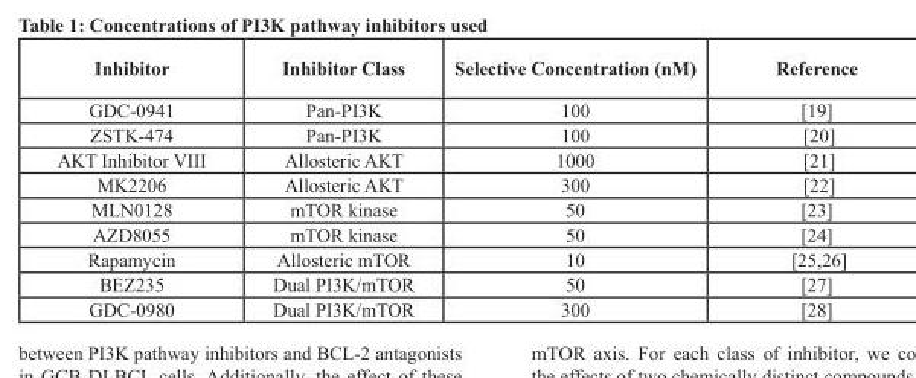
<table><thead><tr><td>Inhibitor</td><td>Inhibitor Class</td><td>Selective Concentration (nM)</td><td>Reference</td></tr></thead><tbody><tr><td>GDC-0941</td><td>Pan-PI3K</td><td>100</td><td>[19]</td></tr><tr><td>ZSTK-474</td><td>Pan-PI3K</td><td>100</td><td>[20]</td></tr><tr><td>AKT Inhibitor VIII</td><td>Allosteric AKT</td><td>1000</td><td>[21]</td></tr><tr><td>MK2206</td><td>Allosteric AKT</td><td>300</td><td>[22]</td></tr><tr><td>MLN0128</td><td>mTOR kinase</td><td>50</td><td>[23]</td></tr><tr><td>AZD8055</td><td>mTOR kinase</td><td>50</td><td>[24]</td></tr><tr><td>Rapamycin</td><td>Allosteric mTOR</td><td>10</td><td>[25,26]</td></tr><tr><td>BEZ235</td><td>Dual PI3K/mTOR</td><td>50</td><td>[27]</td></tr><tr><td>GDC-0980</td><td>Dual PI3K/mTOR</td><td>300</td><td>[28]</td></tr></tbody></table>